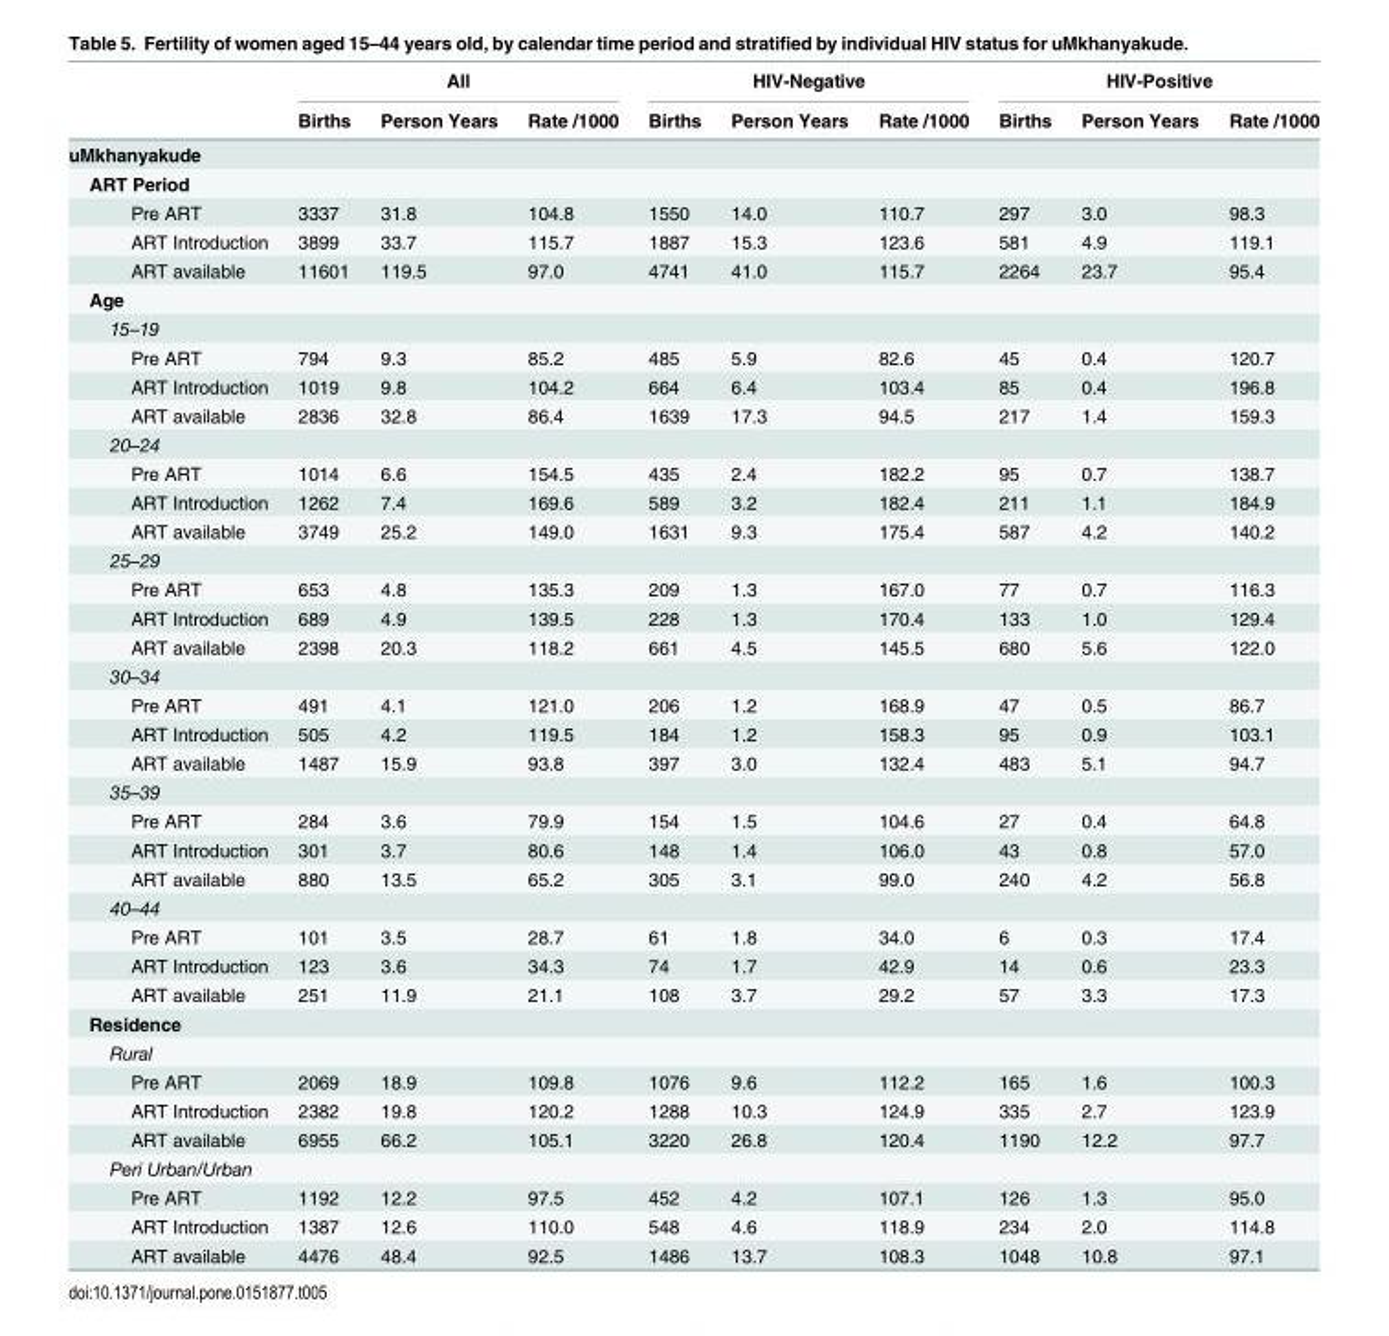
<table><thead><tr><td rowspan="2"></td><td colspan="3">All</td><td colspan="3">HIV-Negative</td><td colspan="3">HIV-Positive</td></tr><tr><td>Births</td><td>Person Years</td><td>Rate /1000</td><td>Births</td><td>Person Years</td><td>Rate /1000</td><td>Births</td><td>Person Years</td><td>Rate /1000</td></tr></thead><tbody><tr><td colspan="10">uMkhanyakude</td></tr><tr><td colspan="10">ART Period</td></tr><tr><td>Pre ART</td><td>3337</td><td>31.8</td><td>104.8</td><td>1550</td><td>14.0</td><td>110.7</td><td>297</td><td>3.0</td><td>98.3</td></tr><tr><td>ART Introduction</td><td>3899</td><td>33.7</td><td>115.7</td><td>1887</td><td>15.3</td><td>123.6</td><td>581</td><td>4.9</td><td>119.1</td></tr><tr><td>ART available</td><td>11601</td><td>119.5</td><td>97.0</td><td>4741</td><td>41.0</td><td>115.7</td><td>2264</td><td>23.7</td><td>95.4</td></tr><tr><td colspan="10">Age</td></tr><tr><td colspan="10">15–19</td></tr><tr><td>Pre ART</td><td>794</td><td>9.3</td><td>85.2</td><td>485</td><td>5.9</td><td>82.6</td><td>45</td><td>0.4</td><td>120.7</td></tr><tr><td>ART Introduction</td><td>1019</td><td>9.8</td><td>104.2</td><td>664</td><td>6.4</td><td>103.4</td><td>85</td><td>0.4</td><td>196.8</td></tr><tr><td>ART available</td><td>2836</td><td>32.8</td><td>86.4</td><td>1639</td><td>17.3</td><td>94.5</td><td>217</td><td>1.4</td><td>159.3</td></tr><tr><td colspan="10">20–24</td></tr><tr><td>Pre ART</td><td>1014</td><td>6.6</td><td>154.5</td><td>435</td><td>2.4</td><td>182.2</td><td>95</td><td>0.7</td><td>138.7</td></tr><tr><td>ART Introduction</td><td>1262</td><td>7.4</td><td>169.6</td><td>589</td><td>3.2</td><td>182.4</td><td>211</td><td>1.1</td><td>184.9</td></tr><tr><td>ART available</td><td>3749</td><td>25.2</td><td>149.0</td><td>1631</td><td>9.3</td><td>175.4</td><td>587</td><td>4.2</td><td>140.2</td></tr><tr><td colspan="10">25–29</td></tr><tr><td>Pre ART</td><td>653</td><td>4.8</td><td>135.3</td><td>209</td><td>1.3</td><td>167.0</td><td>77</td><td>0.7</td><td>116.3</td></tr><tr><td>ART Introduction</td><td>689</td><td>4.9</td><td>139.5</td><td>228</td><td>1.3</td><td>170.4</td><td>133</td><td>1.0</td><td>129.4</td></tr><tr><td>ART available</td><td>2398</td><td>20.3</td><td>118.2</td><td>661</td><td>4.5</td><td>145.5</td><td>680</td><td>5.6</td><td>122.0</td></tr><tr><td colspan="10">30–34</td></tr><tr><td>Pre ART</td><td>491</td><td>4.1</td><td>121.0</td><td>206</td><td>1.2</td><td>168.9</td><td>47</td><td>0.5</td><td>86.7</td></tr><tr><td>ART Introduction</td><td>505</td><td>4.2</td><td>119.5</td><td>184</td><td>1.2</td><td>158.3</td><td>95</td><td>0.9</td><td>103.1</td></tr><tr><td>ART available</td><td>1487</td><td>15.9</td><td>93.8</td><td>397</td><td>3.0</td><td>132.4</td><td>483</td><td>5.1</td><td>94.7</td></tr><tr><td colspan="10">35–39</td></tr><tr><td>Pre ART</td><td>284</td><td>3.6</td><td>79.9</td><td>154</td><td>1.5</td><td>104.6</td><td>27</td><td>0.4</td><td>64.8</td></tr><tr><td>ART Introduction</td><td>301</td><td>3.7</td><td>80.6</td><td>148</td><td>1.4</td><td>106.0</td><td>43</td><td>0.8</td><td>57.0</td></tr><tr><td>ART available</td><td>880</td><td>13.5</td><td>65.2</td><td>305</td><td>3.1</td><td>99.0</td><td>240</td><td>4.2</td><td>56.8</td></tr><tr><td colspan="10">40–44</td></tr><tr><td>Pre ART</td><td>101</td><td>3.5</td><td>28.7</td><td>61</td><td>1.8</td><td>34.0</td><td>6</td><td>0.3</td><td>17.4</td></tr><tr><td>ART Introduction</td><td>123</td><td>3.6</td><td>34.3</td><td>74</td><td>1.7</td><td>42.9</td><td>14</td><td>0.6</td><td>23.3</td></tr><tr><td>ART available</td><td>251</td><td>11.9</td><td>21.1</td><td>108</td><td>3.7</td><td>29.2</td><td>57</td><td>3.3</td><td>17.3</td></tr><tr><td colspan="10">Residence</td></tr><tr><td colspan="10">Rural</td></tr><tr><td>Pre ART</td><td>2069</td><td>18.9</td><td>109.8</td><td>1076</td><td>9.6</td><td>112.2</td><td>165</td><td>1.6</td><td>100.3</td></tr><tr><td>ART Introduction</td><td>2382</td><td>19.8</td><td>120.2</td><td>1288</td><td>10.3</td><td>124.9</td><td>335</td><td>2.7</td><td>123.9</td></tr><tr><td>ART available</td><td>6955</td><td>66.2</td><td>105.1</td><td>3220</td><td>26.8</td><td>120.4</td><td>1190</td><td>12.2</td><td>97.7</td></tr><tr><td colspan="10">Peri Urban/Urban</td></tr><tr><td>Pre ART</td><td>1192</td><td>12.2</td><td>97.5</td><td>452</td><td>4.2</td><td>107.1</td><td>126</td><td>1.3</td><td>95.0</td></tr><tr><td>ART Introduction</td><td>1387</td><td>12.6</td><td>110.0</td><td>548</td><td>4.6</td><td>118.9</td><td>234</td><td>2.0</td><td>114.8</td></tr><tr><td>ART available</td><td>4476</td><td>48.4</td><td>92.5</td><td>1486</td><td>13.7</td><td>108.3</td><td>1048</td><td>10.8</td><td>97.1</td></tr></tbody></table>